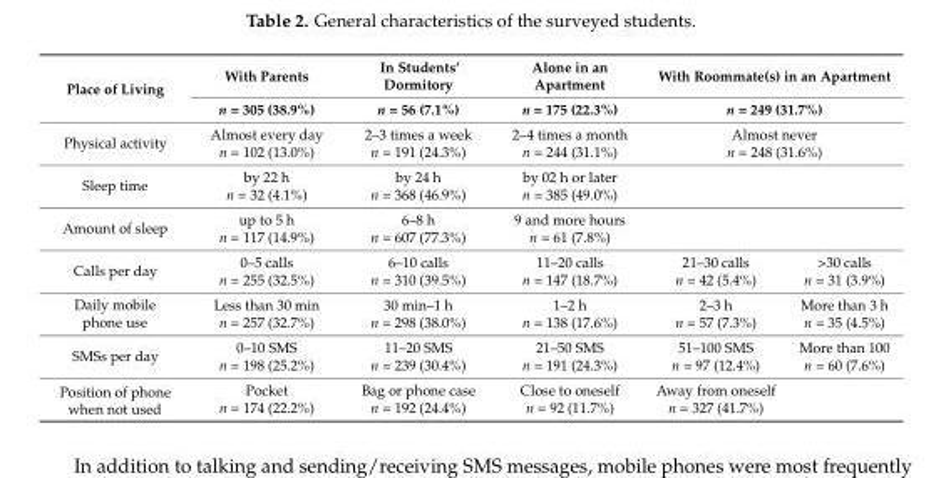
<table><thead><tr><td rowspan="2">Place of Living</td><td rowspan="2">With Parents n = 305 (38.9%)</td><td rowspan="2">In Students’ Dormitory n = 56 (7.1%)</td><td rowspan="2">Alone in an Apartment n = 175 (22.3%)</td><td rowspan="2" colspan="2">With Roommate(s) in an Apartment n = 249 (31.7%)</td></tr><tr></tr></thead><tbody><tr><td rowspan="2">Physical activity</td><td>Almost every day</td><td>2–3 times a week</td><td>2–4 times a month</td><td colspan="2">Almost never</td></tr><tr><td>n = 102 (13.0%)</td><td>n = 191 (24.3%)</td><td>n = 244 (31.1%)</td><td colspan="2">n = 248 (31.6%)</td></tr><tr><td rowspan="2">Sleep time</td><td>by 22 h</td><td>by 24 h</td><td>by 02 h or later</td><td colspan="2"></td></tr><tr><td>n = 32 (4.1%)</td><td>n = 368 (46.9%)</td><td>n = 385 (49.0%)</td><td colspan="2"></td></tr><tr><td rowspan="2">Amount of sleep</td><td>up to 5 h</td><td>6–8 h</td><td>9 and more hours</td><td></td><td></td></tr><tr><td>n = 117 (14.9%)</td><td>n = 607 (77.3%)</td><td>n = 61 (7.8%)</td><td></td><td></td></tr><tr><td rowspan="2">Calls per day</td><td>0–5 calls</td><td>6–10 calls</td><td>11–20 calls</td><td>21–30 calls</td><td>&gt;30 calls</td></tr><tr><td>n = 255 (32.5%)</td><td>n = 310 (39.5%)</td><td>n = 147 (18.7%)</td><td>n = 42 (5.4%)</td><td>n = 31 (3.9%)</td></tr><tr><td rowspan="2">Daily mobile phone use</td><td>Less than 30 min</td><td>30 min–1 h</td><td>1–2 h</td><td>2–3 h</td><td>More than 3 h</td></tr><tr><td>n = 257 (32.7%)</td><td>n = 298 (38.0%)</td><td>n = 138 (17.6%)</td><td>n = 57 (7.3%)</td><td>n = 35 (4.5%)</td></tr><tr><td rowspan="2">SMSs per day</td><td>0–10 SMS</td><td>11–20 SMS</td><td>21–50 SMS</td><td>51–100 SMS</td><td>More than 100</td></tr><tr><td>n = 198 (25.2%)</td><td>n = 239 (30.4%)</td><td>n = 191 (24.3%)</td><td>n = 97 (12.4%)</td><td>n = 60 (7.6%)</td></tr><tr><td rowspan="2">Position of phone when not used</td><td>Pocket</td><td>Bag or phone case</td><td>Close to oneself</td><td>Away from oneself</td><td></td></tr><tr><td>n = 174 (22.2%)</td><td>n = 192 (24.4%)</td><td>n = 92 (11.7%)</td><td>n = 327 (41.7%)</td><td></td></tr></tbody></table>